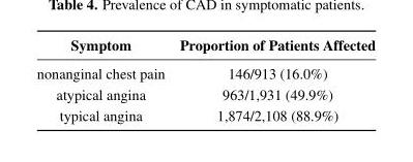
<table><thead><tr><td>Symptom</td><td>Proportion of Patients Affected</td></tr></thead><tbody><tr><td>nonanginal chest pain</td><td>146/913 (16.0%)</td></tr><tr><td>atypical angina</td><td>963/1,931 (49.9%)</td></tr><tr><td>typical angina</td><td>1,874/2,108 (88.9%)</td></tr></tbody></table>